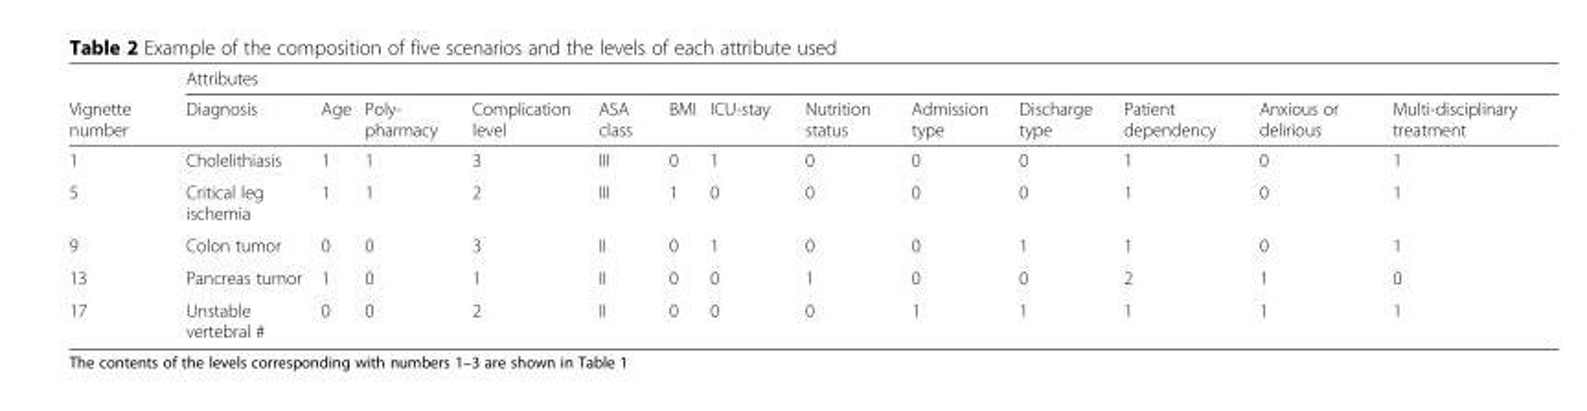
<table><thead><tr><td rowspan="2">Vignette number</td><td colspan="13">Attributes</td></tr><tr><td>Diagnosis</td><td>Age</td><td>Poly- pharmacy</td><td>Complication level</td><td>ASA class</td><td>BMI</td><td>ICU-stay</td><td>Nutrition status</td><td>Admission type</td><td>Discharge type</td><td>Patient dependency</td><td>Anxious or delirious</td><td>Multi-disciplinary treatment</td></tr></thead><tbody><tr><td>1</td><td>Cholelithiasis</td><td>1</td><td>1</td><td>3</td><td>III</td><td>0</td><td>1</td><td>0</td><td>0</td><td>0</td><td>1</td><td>0</td><td>1</td></tr><tr><td>5</td><td>Critical leg ischemia</td><td>1</td><td>1</td><td>2</td><td>III</td><td>1</td><td>0</td><td>0</td><td>0</td><td>0</td><td>1</td><td>0</td><td>1</td></tr><tr><td>9</td><td>Colon tumor</td><td>0</td><td>0</td><td>3</td><td>II</td><td>0</td><td>1</td><td>0</td><td>0</td><td>1</td><td>1</td><td>0</td><td>1</td></tr><tr><td>13</td><td>Pancreas tumor</td><td>1</td><td>0</td><td>1</td><td>II</td><td>0</td><td>0</td><td>1</td><td>0</td><td>0</td><td>2</td><td>1</td><td>0</td></tr><tr><td>17</td><td>Unstable vertebral #</td><td>0</td><td>0</td><td>2</td><td>II</td><td>0</td><td>0</td><td>0</td><td>1</td><td>1</td><td>1</td><td>1</td><td>1</td></tr></tbody></table>